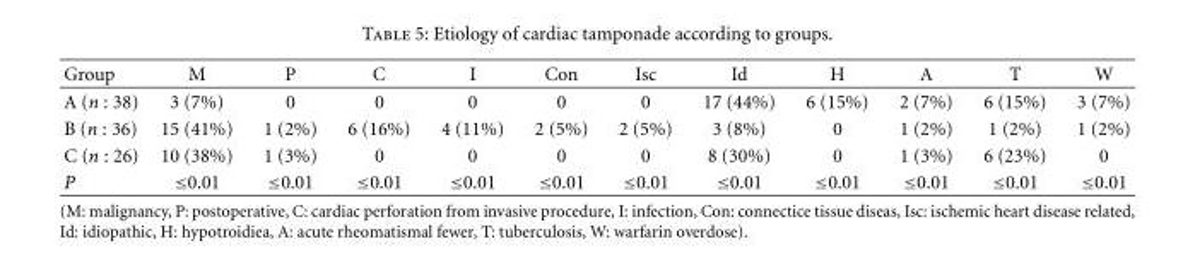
<table><thead><tr><td>Group</td><td>M</td><td>P</td><td>C</td><td>I</td><td>Con</td><td>Isc</td><td>Id</td><td>H</td><td>A</td><td>T</td><td>W</td></tr></thead><tbody><tr><td>A (n : 38)</td><td>3 (7%)</td><td>0</td><td>0</td><td>0</td><td>0</td><td>0</td><td>17 (44%)</td><td>6 (15%)</td><td>2 (7%)</td><td>6 (15%)</td><td>3 (7%)</td></tr><tr><td>B (n : 36)</td><td>15 (41%)</td><td>1 (2%)</td><td>6 (16%)</td><td>4 (11%)</td><td>2 (5%)</td><td>2 (5%)</td><td>3 (8%)</td><td>0</td><td>1 (2%)</td><td>1 (2%)</td><td>1 (2%)</td></tr><tr><td>C (n : 26)</td><td>10 (38%)</td><td>1 (3%)</td><td>0</td><td>0</td><td>0</td><td>0</td><td>8 (30%)</td><td>0</td><td>1 (3%)</td><td>6 (23%)</td><td>0</td></tr><tr><td>P</td><td>≤0.01</td><td>≤0.01</td><td>≤0.01</td><td>≤0.01</td><td>≤0.01</td><td>≤0.01</td><td>≤0.01</td><td>≤0.01</td><td>≤0.01</td><td>≤0.01</td><td>≤0.01</td></tr></tbody></table>